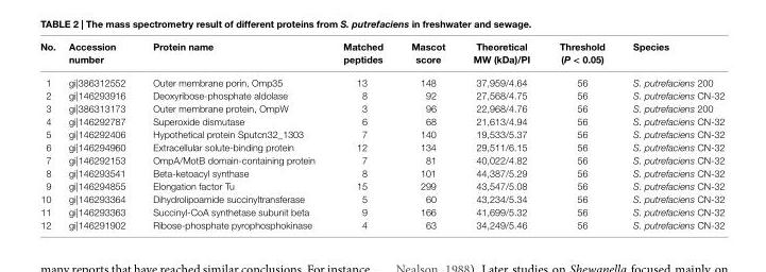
<table><thead><tr><td>no.</td><td>accession number</td><td>Protein name</td><td>Matched peptides</td><td>Mascot score</td><td>Theoretical MW (kDa)/Pi</td><td>Threshold (P &lt; 0.05)</td><td>species</td></tr></thead><tbody><tr><td>1</td><td>gi|386312552</td><td>Outer membrane porin, Omp35</td><td>13</td><td>148</td><td>37,959/4.64</td><td>56</td><td>S. putrefaciens 200</td></tr><tr><td>2</td><td>gi|146293916</td><td>Deoxyribose-phosphate aldolase</td><td>8</td><td>92</td><td>27,568/4.75</td><td>56</td><td>S. putrefaciens CN-32</td></tr><tr><td>3</td><td>gi|386313173</td><td>Outer membrane protein, OmpW</td><td>3</td><td>96</td><td>22,968/4.76</td><td>56</td><td>S. putrefaciens 200</td></tr><tr><td>4</td><td>gi|146292787</td><td>Superoxide dismutase</td><td>6</td><td>68</td><td>21,613/4.94</td><td>56</td><td>S. putrefaciens CN-32</td></tr><tr><td>5</td><td>gi|146292406</td><td>Hypothetical protein Sputcn32_1303</td><td>7</td><td>140</td><td>19,533/5.37</td><td>56</td><td>S. putrefaciens CN-32</td></tr><tr><td>6</td><td>gi|146294960</td><td>Extracellular solute-binding protein</td><td>12</td><td>134</td><td>29,511/6.15</td><td>56</td><td>S. putrefaciens CN-32</td></tr><tr><td>7</td><td>gi|146292153</td><td>OmpA/MotB domain-containing protein</td><td>7</td><td>81</td><td>40,022/4.82</td><td>56</td><td>S. putrefaciens CN-32</td></tr><tr><td>8</td><td>gi|146293541</td><td>Beta-ketoacyl synthase</td><td>8</td><td>101</td><td>44,387/5.29</td><td>56</td><td>S. putrefaciens CN-32</td></tr><tr><td>9</td><td>gi|146294855</td><td>Elongation factor Tu</td><td>15</td><td>299</td><td>43,547/5.08</td><td>56</td><td>S. putrefaciens CN-32</td></tr><tr><td>10</td><td>gi|146293364</td><td>Dihydrolipoamide succinyltransferase</td><td>5</td><td>60</td><td>43,234/5.34</td><td>56</td><td>S. putrefaciens CN-32</td></tr><tr><td>11</td><td>gi|146293363</td><td>Succinyl-CoA synthetase subunit beta</td><td>9</td><td>166</td><td>41,699/5.32</td><td>56</td><td>S. putrefaciens CN-32</td></tr><tr><td>12</td><td>gi|146291902</td><td>Ribose-phosphate pyrophosphokinase</td><td>4</td><td>63</td><td>34,249/5.46</td><td>56</td><td>S. putrefaciens CN-32</td></tr></tbody></table>